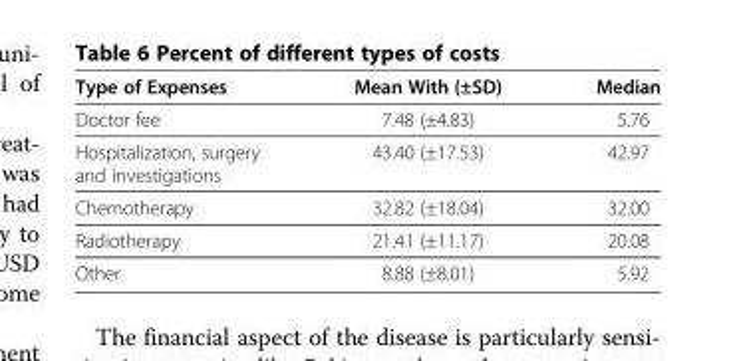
<table><thead><tr><td>Type of Expenses</td><td>Mean With (±SD)</td><td>Median</td></tr></thead><tbody><tr><td>Doctor fee</td><td>7.48 (±4.83)</td><td>5.76</td></tr><tr><td>Hospitalization, surgery and investigations</td><td>43.40 (±17.53)</td><td>42.97</td></tr><tr><td>Chemotherapy</td><td>32.82 (±18.04)</td><td>32.00</td></tr><tr><td>Radiotherapy</td><td>21.41 (±11.17)</td><td>20.08</td></tr><tr><td>Other</td><td>8.88 (±8.01)</td><td>5.92</td></tr></tbody></table>